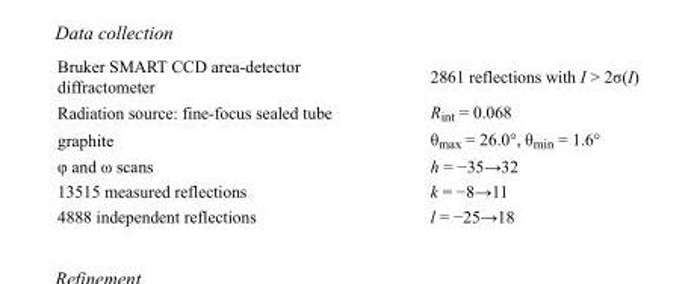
<table><tbody><tr><td>Bruker SMART CCD area-detector diffractometer</td><td>2861 reflections with I &gt; 2σ(I)</td></tr><tr><td>Radiation source: fine-focus sealed tube</td><td>R<sub>int</sub> = 0.068</td></tr><tr><td>graphite</td><td>θ<sub>max</sub> = 26.0°, θ<sub>min</sub> = 1.6°</td></tr><tr><td>φ and ω scans</td><td>h = −35→32</td></tr><tr><td>13515 measured reflections</td><td>k = −8→11</td></tr><tr><td>4888 independent reflections</td><td>l = −25→18</td></tr></tbody></table>